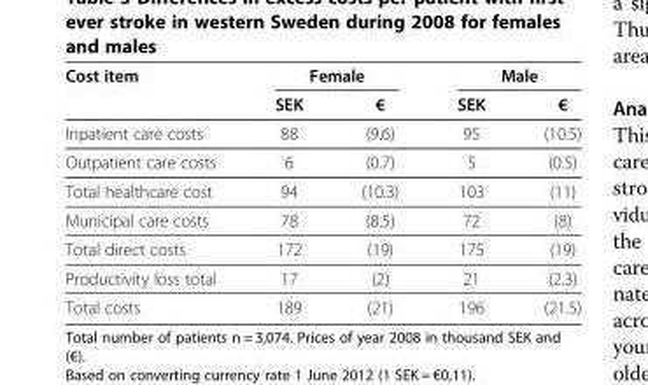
<table><thead><tr><td rowspan="2">Cost item</td><td colspan="2">Female</td><td colspan="2">Male</td></tr><tr><td>SEK</td><td>€</td><td>SEK</td><td>€</td></tr></thead><tbody><tr><td>Inpatient care costs</td><td>88</td><td>(9.6)</td><td>95</td><td>(10.5)</td></tr><tr><td>Outpatient care costs</td><td>6</td><td>(0.7)</td><td>5</td><td>(0.5)</td></tr><tr><td>Total healthcare cost</td><td>94</td><td>(10.3)</td><td>103</td><td>(11)</td></tr><tr><td>Municipal care costs</td><td>78</td><td>(8.5)</td><td>72</td><td>(8)</td></tr><tr><td>Total direct costs</td><td>172</td><td>(19)</td><td>175</td><td>(19)</td></tr><tr><td>Productivity loss total</td><td>17</td><td>(2)</td><td>21</td><td>(2.3)</td></tr><tr><td>Total costs</td><td>189</td><td>(21)</td><td>196</td><td>(21.5)</td></tr></tbody></table>